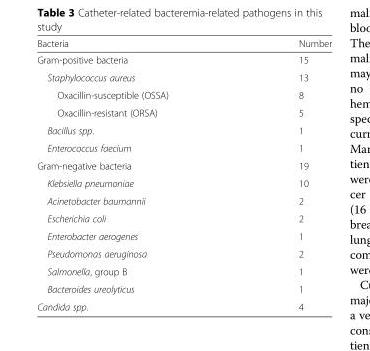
<table><thead><tr><td>Bacteria</td><td>Number</td></tr></thead><tbody><tr><td>Gram-positive bacteria</td><td>15</td></tr><tr><td>Staphylococcus aureus</td><td>13</td></tr><tr><td>Oxacillin-susceptible (OSSA)</td><td>8</td></tr><tr><td>Oxacillin-resistant (ORSA)</td><td>5</td></tr><tr><td>Bacillus spp.</td><td>1</td></tr><tr><td>Enterococcus faecium</td><td>1</td></tr><tr><td>Gram-negative bacteria</td><td>19</td></tr><tr><td>Klebsiella pneumoniae</td><td>10</td></tr><tr><td>Acinetobacter baumannii</td><td>2</td></tr><tr><td>Escherichia coli</td><td>2</td></tr><tr><td>Enterobacter aerogenes</td><td>1</td></tr><tr><td>Pseudomonas aeruginosa</td><td>2</td></tr><tr><td>Salmonella, group B</td><td>1</td></tr><tr><td>Bacteroides ureolyticus</td><td>1</td></tr><tr><td>Candida spp.</td><td>4</td></tr></tbody></table>